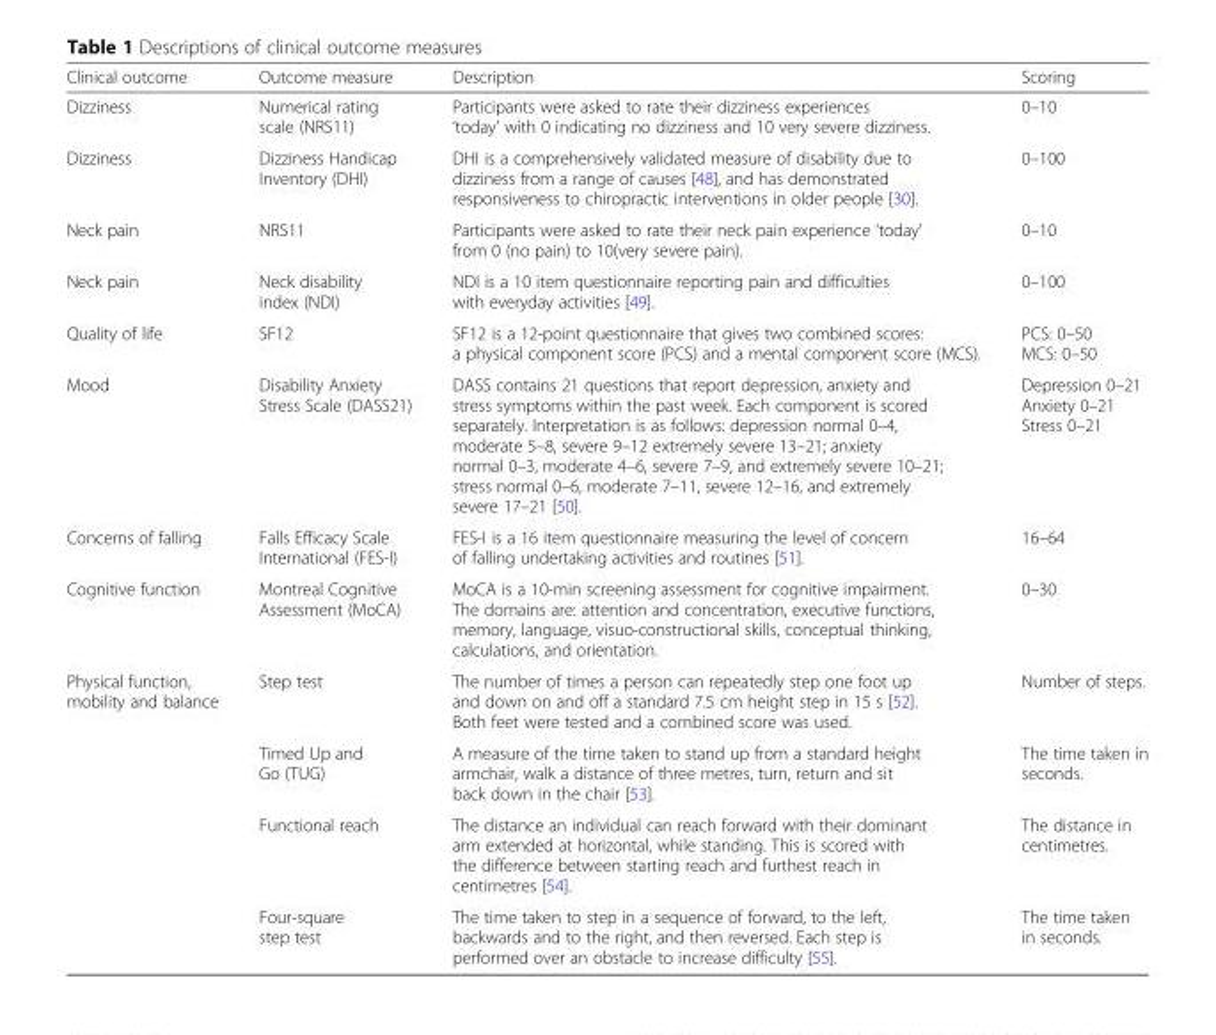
<table><thead><tr><td>Clinical outcome</td><td>Outcome measure</td><td>Description</td><td>Scoring</td></tr></thead><tbody><tr><td>Dizziness</td><td>Numerical rating scale (NRS11)</td><td>Participants were asked to rate their dizziness experiences ‘today’ with 0 indicating no dizziness and 10 very severe dizziness.</td><td>0–10</td></tr><tr><td>Dizziness</td><td>Dizziness Handicap Inventory (DHI)</td><td>DHI is a comprehensively validated measure of disability due to dizziness from a range of causes [48], and has demonstrated responsiveness to chiropractic interventions in older people [30].</td><td>0–100</td></tr><tr><td>Neck pain</td><td>NRS11</td><td>Participants were asked to rate their neck pain experience ‘today’ from 0 (no pain) to 10(very severe pain).</td><td>0–10</td></tr><tr><td>Neck pain</td><td>Neck disability index (NDI)</td><td>NDI is a 10 item questionnaire reporting pain and difficulties with everyday activities [49].</td><td>0–100</td></tr><tr><td>Quality of life</td><td>SF12</td><td>SF12 is a 12-point questionnaire that gives two combined scores: a physical component score (PCS) and a mental component score (MCS).</td><td>PCS: 0–50 MCS: 0–50</td></tr><tr><td>Mood</td><td>Disability Anxiety Stress Scale (DASS21)</td><td>DASS contains 21 questions that report depression, anxiety and stress symptoms within the past week. Each component is scored separately. Interpretation is as follows: depression normal 0–4, moderate 5–8, severe 9–12 extremely severe 13–21; anxiety normal 0–3, moderate 4–6, severe 7–9, and extremely severe 10–21; stress normal 0–6, moderate 7–11, severe 12–16, and extremely severe 17–21 [50].</td><td>Depression 0–21 Anxiety 0–21 Stress 0–21</td></tr><tr><td>Concerns of falling</td><td>Falls Efficacy Scale International (FES-I)</td><td>FES-I is a 16 item questionnaire measuring the level of concern of falling undertaking activities and routines [51].</td><td>16–64</td></tr><tr><td>Cognitive function</td><td>Montreal Cognitive Assessment (MoCA)</td><td>MoCA is a 10-min screening assessment for cognitive impairment. The domains are: attention and concentration, executive functions, memory, language, visuo-constructional skills, conceptual thinking, calculations, and orientation.</td><td>0–30</td></tr><tr><td rowspan="4">Physical function, mobility and balance</td><td>Step test</td><td>The number of times a person can repeatedly step one foot up and down on and off a standard 7.5 cm height step in 15 s [52]. Both feet were tested and a combined score was used.</td><td>Number of steps.</td></tr><tr><td>Timed Up and Go (TUG)</td><td>A measure of the time taken to stand up from a standard height armchair, walk a distance of three metres, turn, return and sit back down in the chair [53].</td><td>The time taken in seconds.</td></tr><tr><td>Functional reach</td><td>The distance an individual can reach forward with their dominant arm extended at horizontal, while standing. This is scored with the difference between starting reach and furthest reach in centimetres [54].</td><td>The distance in centimetres.</td></tr><tr><td>Four-square step test</td><td>The time taken to step in a sequence of forward, to the left, backwards and to the right, and then reversed. Each step is performed over an obstacle to increase difficulty [55].</td><td>The time taken in seconds.</td></tr></tbody></table>